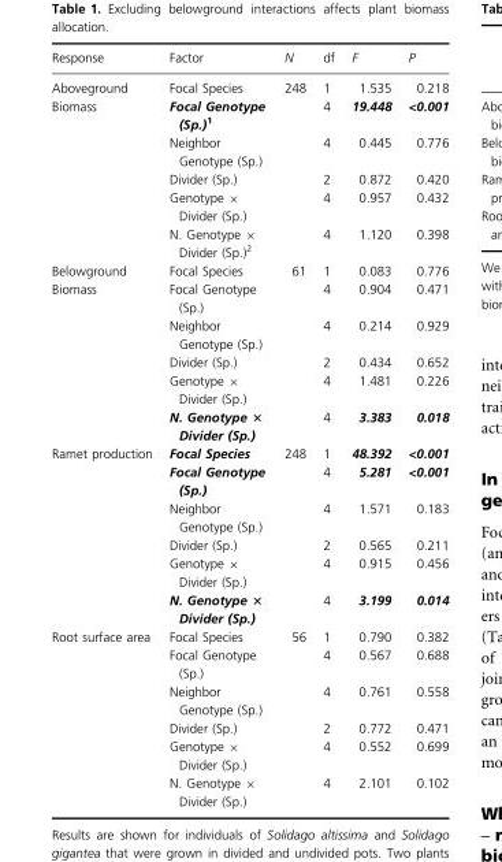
<table><thead><tr><td>Response</td><td>Factor</td><td>N</td><td>df</td><td>F</td><td>P</td></tr></thead><tbody><tr><td>Aboveground</td><td>Focal Species</td><td>248</td><td>1</td><td>1.535</td><td>0.218</td></tr><tr><td rowspan="5">Biomass</td><td>Focal Genotype (Sp.)<sup>1</sup></td><td></td><td>4</td><td>19.448</td><td>&lt;0.001</td></tr><tr><td>Neighbor Genotype (Sp.)</td><td></td><td>4</td><td>0.445</td><td>0.776</td></tr><tr><td>Divider (Sp.)</td><td></td><td>2</td><td>0.872</td><td>0.420</td></tr><tr><td>Genotype × Divider (Sp.)</td><td></td><td>4</td><td>0.957</td><td>0.432</td></tr><tr><td>N. Genotype × Divider (Sp.)<sup>2</sup></td><td></td><td>4</td><td>1.120</td><td>0.398</td></tr><tr><td>Belowground</td><td>Focal Species</td><td>61</td><td>1</td><td>0.083</td><td>0.776</td></tr><tr><td rowspan="5">Biomass</td><td>Focal Genotype (Sp.)</td><td></td><td>4</td><td>0.904</td><td>0.471</td></tr><tr><td>Neighbor Genotype (Sp.)</td><td></td><td>4</td><td>0.214</td><td>0.929</td></tr><tr><td>Divider (Sp.)</td><td></td><td>2</td><td>0.434</td><td>0.652</td></tr><tr><td>Genotype × Divider (Sp.)</td><td></td><td>4</td><td>1.481</td><td>0.226</td></tr><tr><td>N. Genotype × Divider (Sp.)</td><td></td><td>4</td><td>3.383</td><td>0.018</td></tr><tr><td rowspan="6">Ramet production</td><td>Focal Species</td><td>248</td><td>1</td><td>48.392</td><td>&lt;0.001</td></tr><tr><td>Focal Genotype (Sp.)</td><td></td><td>4</td><td>5.281</td><td>&lt;0.001</td></tr><tr><td>Neighbor Genotype (Sp.)</td><td></td><td>4</td><td>1.571</td><td>0.183</td></tr><tr><td>Divider (Sp.)</td><td></td><td>2</td><td>0.565</td><td>0.211</td></tr><tr><td>Genotype × Divider (Sp.)</td><td></td><td>4</td><td>0.915</td><td>0.456</td></tr><tr><td>N. Genotype × Divider (Sp.)</td><td></td><td>4</td><td>3.199</td><td>0.014</td></tr><tr><td rowspan="6">Root surface area</td><td>Focal Species</td><td>56</td><td>1</td><td>0.790</td><td>0.382</td></tr><tr><td>Focal Genotype (Sp.)</td><td></td><td>4</td><td>0.567</td><td>0.688</td></tr><tr><td>Neighbor Genotype (Sp.)</td><td></td><td>4</td><td>0.761</td><td>0.558</td></tr><tr><td>Divider (Sp.)</td><td></td><td>2</td><td>0.772</td><td>0.471</td></tr><tr><td>Genotype × Divider (Sp.)</td><td></td><td>4</td><td>0.552</td><td>0.699</td></tr><tr><td>N. Genotype × Divider (Sp.)</td><td></td><td>4</td><td>2.101</td><td>0.102</td></tr></tbody></table>